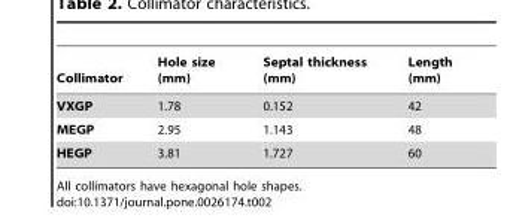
<table><thead><tr><td>Collimator</td><td>Hole size (mm)</td><td>Septal thickness (mm)</td><td>Length (mm)</td></tr></thead><tbody><tr><td>VXGP</td><td>1.78</td><td>0.152</td><td>42</td></tr><tr><td>MEGP</td><td>2.95</td><td>1.143</td><td>48</td></tr><tr><td>HEGP</td><td>3.81</td><td>1.727</td><td>60</td></tr></tbody></table>